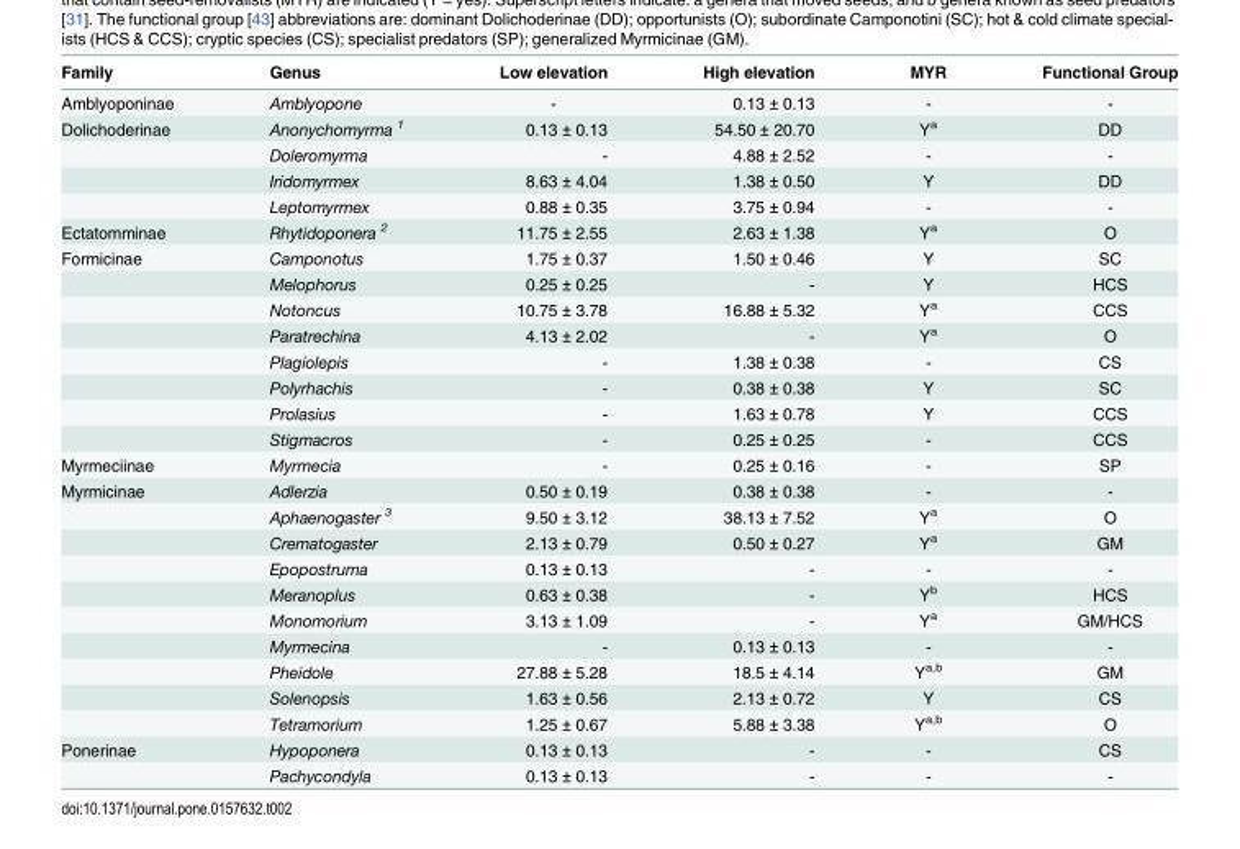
<table><thead><tr><td>Family</td><td>Genus</td><td>Low elevation</td><td>High elevation</td><td>MYR</td><td>Functional Group</td></tr></thead><tbody><tr><td>Amblyoponinae</td><td>Amblyopone</td><td>-</td><td>0.13 ± 0.13</td><td>-</td><td>-</td></tr><tr><td rowspan="4">Dolichoderinae</td><td>Anonychomyrma <sup>1</sup></td><td>0.13 ± 0.13</td><td>54.50 ± 20.70</td><td>Y<sup>a</sup></td><td>DD</td></tr><tr><td>Doleromyrma</td><td>-</td><td>4.88 ± 2.52</td><td>-</td><td>-</td></tr><tr><td>Iridomyrmex</td><td>8.63 ± 4.04</td><td>1.38 ± 0.50</td><td>Y</td><td>DD</td></tr><tr><td>Leptomyrmex</td><td>0.88 ± 0.35</td><td>3.75 ± 0.94</td><td>-</td><td>-</td></tr><tr><td>Ectatomminae</td><td>Rhytidoponera <sup>2</sup></td><td>11.75 ± 2.55</td><td>2.63 ± 1.38</td><td>Y<sup>a</sup></td><td>O</td></tr><tr><td rowspan="8">Formicinae</td><td>Camponotus</td><td>1.75 ± 0.37</td><td>1.50 ± 0.46</td><td>Y</td><td>SC</td></tr><tr><td>Melophorus</td><td>0.25 ± 0.25</td><td>-</td><td>Y</td><td>HCS</td></tr><tr><td>Notoncus</td><td>10.75 ± 3.78</td><td>16.88 ± 5.32</td><td>Y<sup>a</sup></td><td>CCS</td></tr><tr><td>Paratrechina</td><td>4.13 ± 2.02</td><td>-</td><td>Y<sup>a</sup></td><td>O</td></tr><tr><td>Plagiolepis</td><td>-</td><td>1.38 ± 0.38</td><td>-</td><td>CS</td></tr><tr><td>Polyrhachis</td><td>-</td><td>0.38 ± 0.38</td><td>Y</td><td>SC</td></tr><tr><td>Prolasius</td><td>-</td><td>1.63 ± 0.78</td><td>Y</td><td>CCS</td></tr><tr><td>Stigmacros</td><td>-</td><td>0.25 ± 0.25</td><td>-</td><td>CCS</td></tr><tr><td>Myrmeciinae</td><td>Myrmecia</td><td>-</td><td>0.25 ± 0.16</td><td>-</td><td>SP</td></tr><tr><td rowspan="10">Myrmicinae</td><td>Adlerzia</td><td>0.50 ± 0.19</td><td>0.38 ± 0.38</td><td>-</td><td>-</td></tr><tr><td>Aphaenogaster <sup>3</sup></td><td>9.50 ± 3.12</td><td>38.13 ± 7.52</td><td>Y<sup>a</sup></td><td>O</td></tr><tr><td>Crematogaster</td><td>2.13 ± 0.79</td><td>0.50 ± 0.27</td><td>Y<sup>a</sup></td><td>GM</td></tr><tr><td>Epopostruma</td><td>0.13 ± 0.13</td><td>-</td><td>-</td><td>-</td></tr><tr><td>Meranoplus</td><td>0.63 ± 0.38</td><td>-</td><td>Y<sup>b</sup></td><td>HCS</td></tr><tr><td>Monomorium</td><td>3.13 ± 1.09</td><td>-</td><td>Y<sup>a</sup></td><td>GM/HCS</td></tr><tr><td>Myrmecina</td><td>-</td><td>0.13 ± 0.13</td><td>-</td><td>-</td></tr><tr><td>Pheidole</td><td>27.88 ± 5.28</td><td>18.5 ± 4.14</td><td>Y<sup>a,b</sup></td><td>GM</td></tr><tr><td>Solenopsis</td><td>1.63 ± 0.56</td><td>2.13 ± 0.72</td><td>Y</td><td>CS</td></tr><tr><td>Tetramorium</td><td>1.25 ± 0.67</td><td>5.88 ± 3.38</td><td>Y<sup>a,b</sup></td><td>O</td></tr><tr><td rowspan="2">Ponerinae</td><td>Hypoponera</td><td>0.13 ± 0.13</td><td>-</td><td>-</td><td>CS</td></tr><tr><td>Pachycondyla</td><td>0.13 ± 0.13</td><td>-</td><td>-</td><td>-</td></tr></tbody></table>